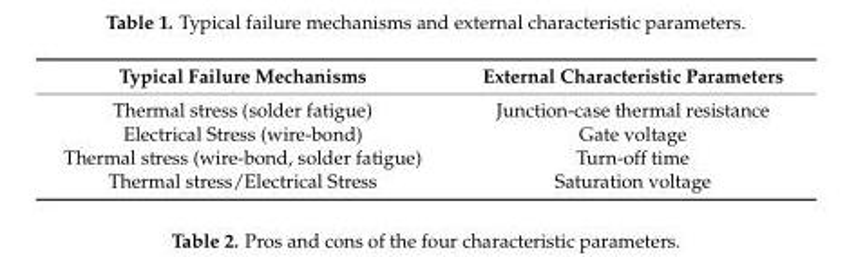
<table><thead><tr><td>Typical Failure Mechanisms</td><td>External Characteristic Parameters</td></tr></thead><tbody><tr><td>Thermal stress (solder fatigue)</td><td>Junction-case thermal resistance</td></tr><tr><td>Electrical Stress (wire-bond)</td><td>Gate voltage</td></tr><tr><td>Thermal stress (wire-bond, solder fatigue)</td><td>Turn-off time</td></tr><tr><td>Thermal stress/Electrical Stress</td><td>Saturation voltage</td></tr></tbody></table>